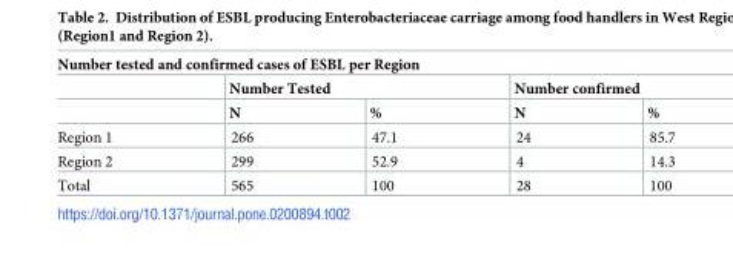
<table><thead><tr><td colspan="5">Number tested and confirmed cases of ESBL per Region</td></tr><tr><td rowspan="2"></td><td colspan="2">Number Tested</td><td colspan="2">Number confirmed</td></tr><tr><td>N</td><td>%</td><td>N</td><td>%</td></tr></thead><tbody><tr><td>Region 1</td><td>266</td><td>47.1</td><td>24</td><td>85.7</td></tr><tr><td>Region 2</td><td>299</td><td>52.9</td><td>4</td><td>14.3</td></tr><tr><td>Total</td><td>565</td><td>100</td><td>28</td><td>100</td></tr></tbody></table>